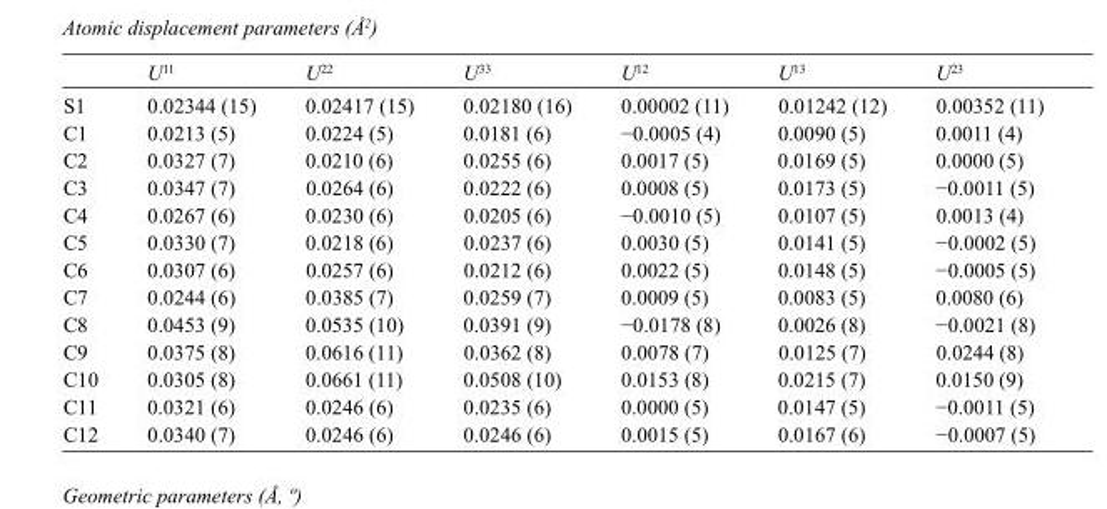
<table><thead><tr><td></td><td>U<sup>11</sup></td><td>U<sup>22</sup></td><td>U<sup>33</sup></td><td>U<sup>12</sup></td><td>U<sup>13</sup></td><td>U<sup>23</sup></td></tr></thead><tbody><tr><td>S1</td><td>0.02344 (15)</td><td>0.02417 (15)</td><td>0.02180 (16)</td><td>0.00002 (11)</td><td>0.01242 (12)</td><td>0.00352 (11)</td></tr><tr><td>C1</td><td>0.0213 (5)</td><td>0.0224 (5)</td><td>0.0181 (6)</td><td>−0.0005 (4)</td><td>0.0090 (5)</td><td>0.0011 (4)</td></tr><tr><td>C2</td><td>0.0327 (7)</td><td>0.0210 (6)</td><td>0.0255 (6)</td><td>0.0017 (5)</td><td>0.0169 (5)</td><td>0.0000 (5)</td></tr><tr><td>C3</td><td>0.0347 (7)</td><td>0.0264 (6)</td><td>0.0222 (6)</td><td>0.0008 (5)</td><td>0.0173 (5)</td><td>−0.0011 (5)</td></tr><tr><td>C4</td><td>0.0267 (6)</td><td>0.0230 (6)</td><td>0.0205 (6)</td><td>−0.0010 (5)</td><td>0.0107 (5)</td><td>0.0013 (4)</td></tr><tr><td>C5</td><td>0.0330 (7)</td><td>0.0218 (6)</td><td>0.0237 (6)</td><td>0.0030 (5)</td><td>0.0141 (5)</td><td>−0.0002 (5)</td></tr><tr><td>C6</td><td>0.0307 (6)</td><td>0.0257 (6)</td><td>0.0212 (6)</td><td>0.0022 (5)</td><td>0.0148 (5)</td><td>−0.0005 (5)</td></tr><tr><td>C7</td><td>0.0244 (6)</td><td>0.0385 (7)</td><td>0.0259 (7)</td><td>0.0009 (5)</td><td>0.0083 (5)</td><td>0.0080 (6)</td></tr><tr><td>C8</td><td>0.0453 (9)</td><td>0.0535 (10)</td><td>0.0391 (9)</td><td>−0.0178 (8)</td><td>0.0026 (8)</td><td>−0.0021 (8)</td></tr><tr><td>C9</td><td>0.0375 (8)</td><td>0.0616 (11)</td><td>0.0362 (8)</td><td>0.0078 (7)</td><td>0.0125 (7)</td><td>0.0244 (8)</td></tr><tr><td>C10</td><td>0.0305 (8)</td><td>0.0661 (11)</td><td>0.0508 (10)</td><td>0.0153 (8)</td><td>0.0215 (7)</td><td>0.0150 (9)</td></tr><tr><td>C11</td><td>0.0321 (6)</td><td>0.0246 (6)</td><td>0.0235 (6)</td><td>0.0000 (5)</td><td>0.0147 (5)</td><td>−0.0011 (5)</td></tr><tr><td>C12</td><td>0.0340 (7)</td><td>0.0246 (6)</td><td>0.0246 (6)</td><td>0.0015 (5)</td><td>0.0167 (6)</td><td>−0.0007 (5)</td></tr></tbody></table>